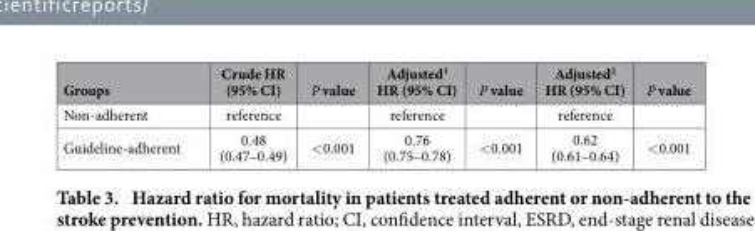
<table><thead><tr><td>Groups</td><td>Crude HR (95% CI)</td><td>P value</td><td>Adjusted<sup>1</sup> HR (95% CI)</td><td>P value</td><td>Adjusted<sup>2</sup> HR (95% CI)</td><td>P value</td></tr></thead><tbody><tr><td>Non-adherent</td><td>reference</td><td></td><td>reference</td><td></td><td>reference</td><td></td></tr><tr><td>Guideline-adherent</td><td>0.48 (0.47–0.49)</td><td>&lt;0.001</td><td>0.76 (0.75–0.78)</td><td>&lt;0.001</td><td>0.62 (0.61–0.64)</td><td>&lt;0.001</td></tr></tbody></table>